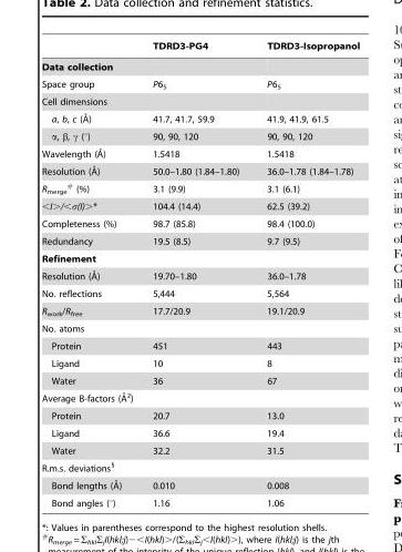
<table><thead><tr><td></td><td>TDRD3-PG4</td><td>TDRD3-Isopropanol</td></tr></thead><tbody><tr><td colspan="3">Data collection</td></tr><tr><td>Space group</td><td>P6<sub>5</sub></td><td>P6<sub>5</sub></td></tr><tr><td colspan="3">Cell dimensions</td></tr><tr><td>a, b, c (A˚)</td><td>41.7, 41.7, 59.9</td><td>41.9, 41.9, 61.5</td></tr><tr><td>α, β, γ (°)</td><td>90, 90, 120</td><td>90, 90, 120</td></tr><tr><td>Wavelength (A˚)</td><td>1.5418</td><td>1.5418</td></tr><tr><td>Resolution (A˚)</td><td>50.0–1.80 (1.84–1.80)</td><td>36.0–1.78 (1.84–1.78)</td></tr><tr><td>R<sub>merge</sub> # (%)</td><td>3.1 (9.9)</td><td>3.1 (6.1)</td></tr><tr><td>&lt;I&gt;/&lt;σ(I)&gt;*</td><td>104.4 (14.4)</td><td>62.5 (39.2)</td></tr><tr><td>Completeness (%)</td><td>98.7 (85.8)</td><td>98.4 (100.0)</td></tr><tr><td>Redundancy</td><td>19.5 (8.5)</td><td>9.7 (9.5)</td></tr><tr><td colspan="3">Refinement</td></tr><tr><td>Resolution (A˚)</td><td>19.70–1.80</td><td>36.0–1.78</td></tr><tr><td>No. reflections</td><td>5,444</td><td>5,564</td></tr><tr><td>R<sub>work</sub>/R<sub>free</sub></td><td>17.7/20.9</td><td>19.1/20.9</td></tr><tr><td colspan="3">No. atoms</td></tr><tr><td>Protein</td><td>451</td><td>443</td></tr><tr><td>Ligand</td><td>10</td><td>8</td></tr><tr><td>Water</td><td>36</td><td>67</td></tr><tr><td colspan="3">Average B-factors (A˚ 2)</td></tr><tr><td>Protein</td><td>20.7</td><td>13.0</td></tr><tr><td>Ligand</td><td>36.6</td><td>19.4</td></tr><tr><td>Water</td><td>32.2</td><td>31.5</td></tr><tr><td colspan="3">R.m.s. deviations§</td></tr><tr><td>Bond lengths (A˚)</td><td>0.010</td><td>0.008</td></tr><tr><td>Bond angles (°)</td><td>1.16</td><td>1.06</td></tr></tbody></table>